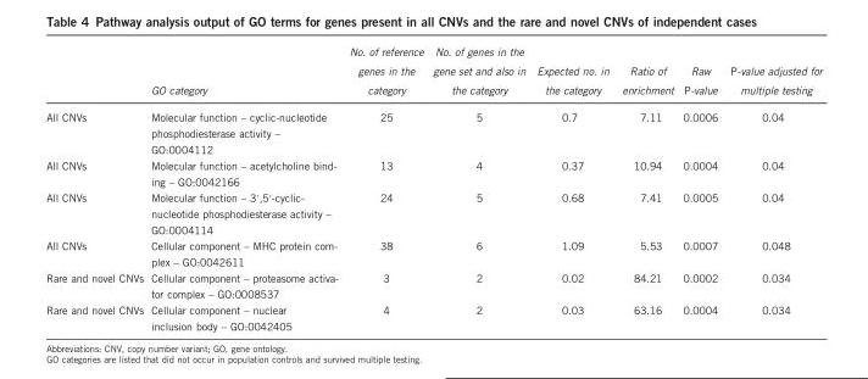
<table><thead><tr><td></td><td>GO category</td><td>No. of reference genes in the category</td><td>No. of genes in the gene set and also in the category</td><td>Expected no. in the category</td><td>Ratio of enrichment</td><td>Raw P-value</td><td>P-value adjusted for multiple testing</td></tr></thead><tbody><tr><td>All CNVs</td><td>Molecular function – cyclic-nucleotide phosphodiesterase activity – GO:0004112</td><td>25</td><td>5</td><td>0.7</td><td>7.11</td><td>0.0006</td><td>0.04</td></tr><tr><td>All CNVs</td><td>Molecular function – acetylcholine bind- ing – GO:0042166</td><td>13</td><td>4</td><td>0.37</td><td>10.94</td><td>0.0004</td><td>0.04</td></tr><tr><td>All CNVs</td><td>Molecular function – 3′,5′-cyclic- nucleotide phosphodiesterase activity – GO:0004114</td><td>24</td><td>5</td><td>0.68</td><td>7.41</td><td>0.0005</td><td>0.04</td></tr><tr><td>All CNVs</td><td>Cellular component – MHC protein com- plex – GO:0042611</td><td>38</td><td>6</td><td>1.09</td><td>5.53</td><td>0.0007</td><td>0.048</td></tr><tr><td>Rare and novel CNVs</td><td>Cellular component – proteasome activa- tor complex – GO:0008537</td><td>3</td><td>2</td><td>0.02</td><td>84.21</td><td>0.0002</td><td>0.034</td></tr><tr><td>Rare and novel CNVs</td><td>Cellular component – nuclear inclusion body – GO:0042405</td><td>4</td><td>2</td><td>0.03</td><td>63.16</td><td>0.0004</td><td>0.034</td></tr></tbody></table>